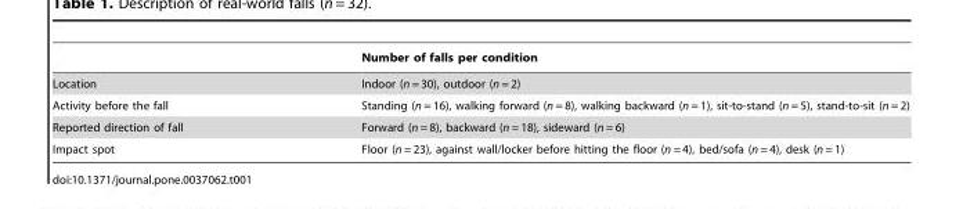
<table><thead><tr><td></td><td>Number of falls per condition</td></tr></thead><tbody><tr><td>Location</td><td>Indoor (n = 30), outdoor (n = 2)</td></tr><tr><td>Activity before the fall</td><td>Standing (n = 16), walking forward (n = 8), walking backward (n = 1), sit-to-stand (n = 5), stand-to-sit (n = 2)</td></tr><tr><td>Reported direction of fall</td><td>Forward (n = 8), backward (n = 18), sideward (n = 6)</td></tr><tr><td>Impact spot</td><td>Floor (n = 23), against wall/locker before hitting the floor (n = 4), bed/sofa (n = 4), desk (n = 1)</td></tr></tbody></table>